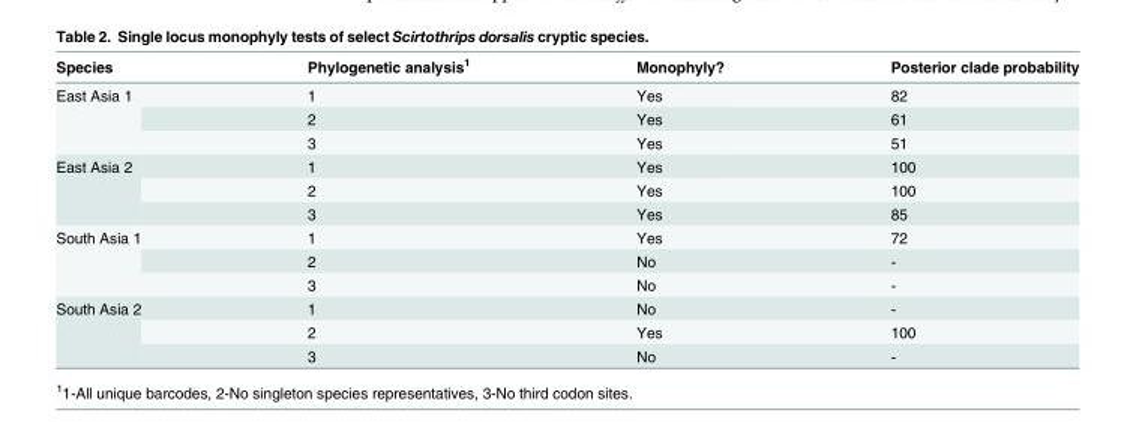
<table><thead><tr><td>Species</td><td>Phylogenetic analysis<sup>1</sup></td><td>Monophyly?</td><td>Posterior clade probability</td></tr></thead><tbody><tr><td rowspan="3">East Asia 1</td><td>1</td><td>Yes</td><td>82</td></tr><tr><td>2</td><td>Yes</td><td>61</td></tr><tr><td>3</td><td>Yes</td><td>51</td></tr><tr><td rowspan="3">East Asia 2</td><td>1</td><td>Yes</td><td>100</td></tr><tr><td>2</td><td>Yes</td><td>100</td></tr><tr><td>3</td><td>Yes</td><td>85</td></tr><tr><td rowspan="3">South Asia 1</td><td>1</td><td>Yes</td><td>72</td></tr><tr><td>2</td><td>No</td><td>-</td></tr><tr><td>3</td><td>No</td><td>-</td></tr><tr><td rowspan="3">South Asia 2</td><td>1</td><td>No</td><td>-</td></tr><tr><td>2</td><td>Yes</td><td>100</td></tr><tr><td>3</td><td>No</td><td>-</td></tr></tbody></table>